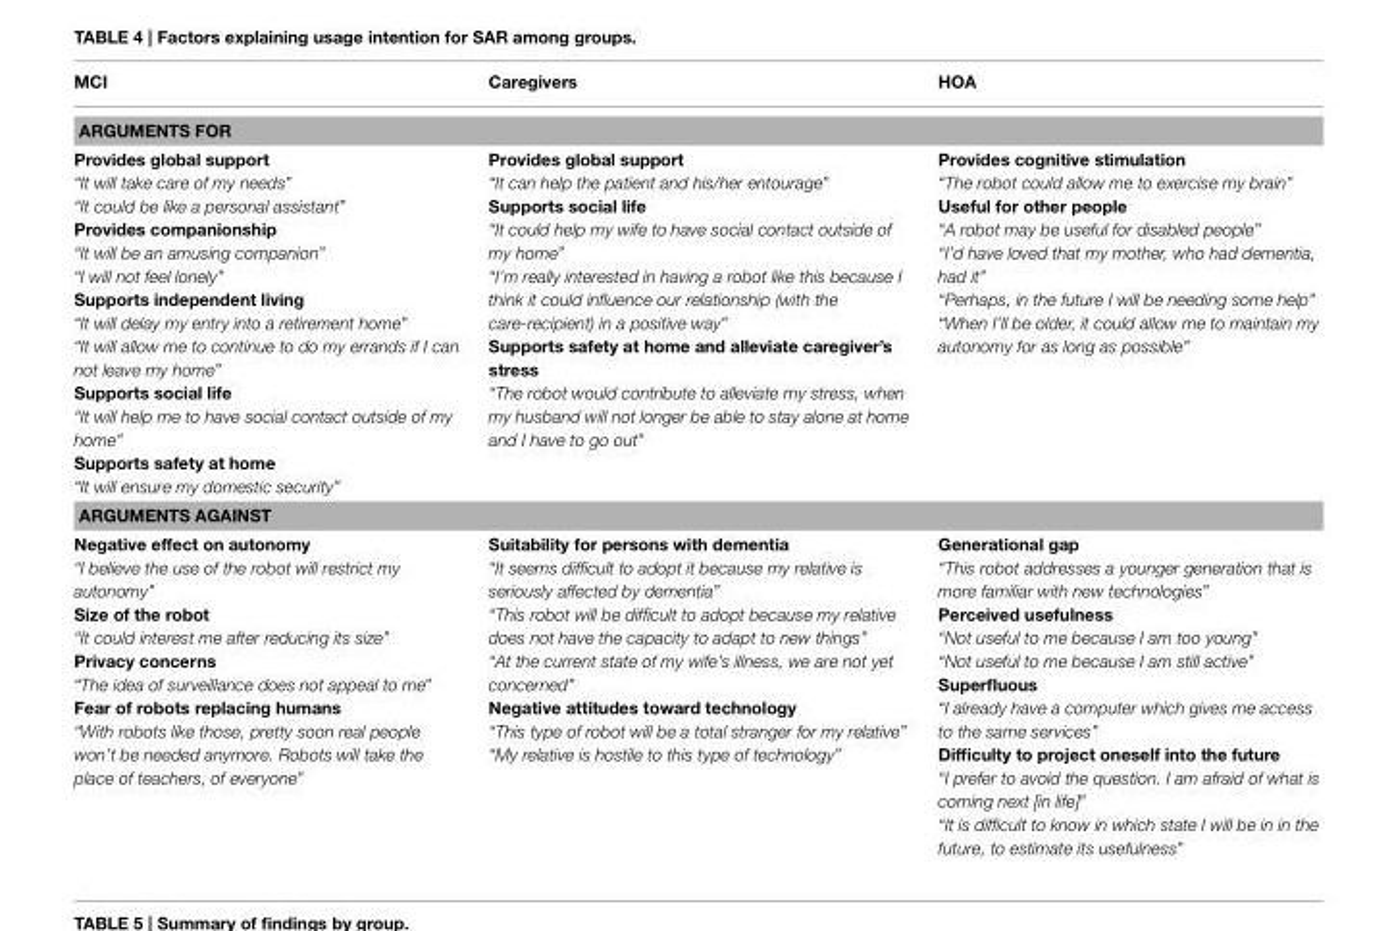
<table><thead><tr><td>MCI</td><td>Caregivers</td><td>HOA</td></tr></thead><tbody><tr><td colspan="3">ARGUMENTS FOR</td></tr><tr><td>Provides global support “It will take care of my needs” “It could be like a personal assistant” Provides companionship “It will be an amusing companion” “I will not feel lonely” Supports independent living “It will delay my entry into a retirement home” “It will allow me to continue to do my errands if I can not leave my home” Supports social life “It will help me to have social contact outside of my home” Supports safety at home “It will ensure my domestic security”</td><td>Provides global support “It can help the patient and his/her entourage” Supports social life “It could help my wife to have social contact outside of my home” “I’m really interested in having a robot like this because I think it could influence our relationship (with the care-recipient) in a positive way” Supports safety at home and alleviate caregiver’s stress “The robot would contribute to alleviate my stress, when my husband will not longer be able to stay alone at home and I have to go out”</td><td>Provides cognitive stimulation “The robot could allow me to exercise my brain” Useful for other people “A robot may be useful for disabled people” “I’d have loved that my mother, who had dementia, had it” “Perhaps, in the future I will be needing some help” “When I’ll be older, it could allow me to maintain my autonomy for as long as possible”</td></tr><tr><td colspan="3">ARGUMENTS AGAINST</td></tr><tr><td>Negative effect on autonomy “I believe the use of the robot will restrict my autonomy” Size of the robot “It could interest me after reducing its size” Privacy concerns “The idea of surveillance does not appeal to me” Fear of robots replacing humans “With robots like those, pretty soon real people won’t be needed anymore. Robots will take the place of teachers, of everyone”</td><td>Suitability for persons with dementia “It seems difficult to adopt it because my relative is seriously affected by dementia” “This robot will be difficult to adopt because my relative does not have the capacity to adapt to new things” “At the current state of my wife’s illness, we are not yet concerned” Negative attitudes toward technology “This type of robot will be a total stranger for my relative” “My relative is hostile to this type of technology”</td><td>Generational gap “This robot addresses a younger generation that is more familiar with new technologies” Perceived usefulness “Not useful to me because I am too young” “Not useful to me because I am still active” Superfluous “I already have a computer which gives me access to the same services” Difficulty to project oneself into the future “I prefer to avoid the question. I am afraid of what is coming next [in life]” “It is difficult to know in which state I will be in in the future, to estimate its usefulness”</td></tr></tbody></table>